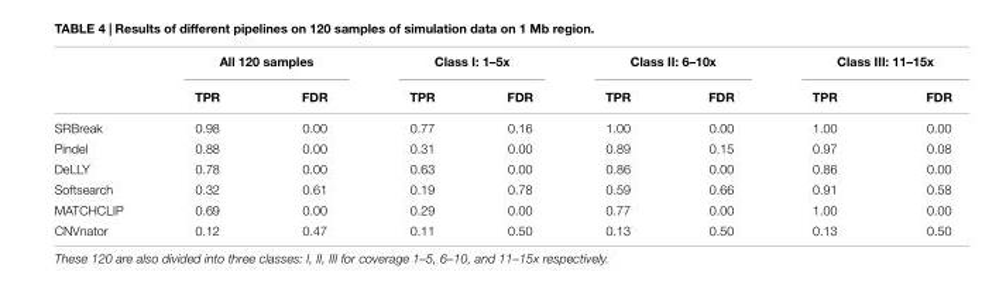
<table><thead><tr><td rowspan="2"></td><td colspan="2">All 120 samples</td><td colspan="2">Class I: 1–5x</td><td colspan="2">Class II: 6–10x</td><td colspan="2">Class III: 11–15x</td></tr><tr><td>TPR</td><td>FDR</td><td>TPR</td><td>FDR</td><td>TPR</td><td>FDR</td><td>TPR</td><td>FDR</td></tr></thead><tbody><tr><td>SRBreak</td><td>0.98</td><td>0.00</td><td>0.77</td><td>0.16</td><td>1.00</td><td>0.00</td><td>1.00</td><td>0.00</td></tr><tr><td>Pindel</td><td>0.88</td><td>0.00</td><td>0.31</td><td>0.00</td><td>0.89</td><td>0.15</td><td>0.97</td><td>0.08</td></tr><tr><td>DeLLY</td><td>0.78</td><td>0.00</td><td>0.63</td><td>0.00</td><td>0.86</td><td>0.00</td><td>0.86</td><td>0.00</td></tr><tr><td>Softsearch</td><td>0.32</td><td>0.61</td><td>0.19</td><td>0.78</td><td>0.59</td><td>0.66</td><td>0.91</td><td>0.58</td></tr><tr><td>MATCHCLIP</td><td>0.69</td><td>0.00</td><td>0.29</td><td>0.00</td><td>0.77</td><td>0.00</td><td>1.00</td><td>0.00</td></tr><tr><td>CNVnator</td><td>0.12</td><td>0.47</td><td>0.11</td><td>0.50</td><td>0.13</td><td>0.50</td><td>0.13</td><td>0.50</td></tr></tbody></table>